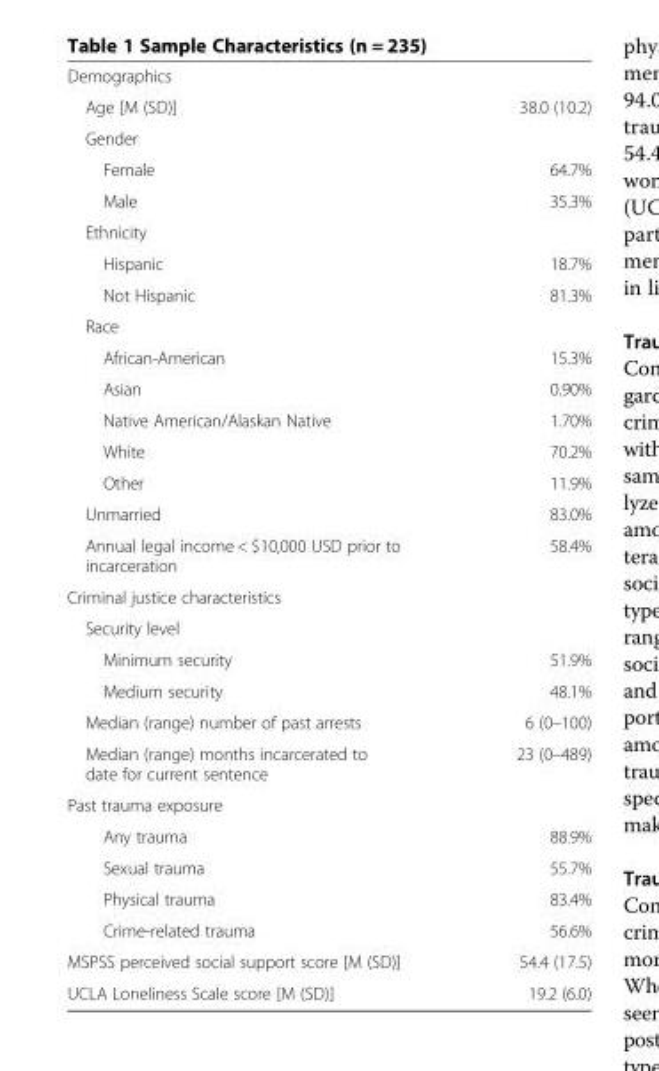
<table><tbody><tr><td colspan="2">Demographics</td></tr><tr><td>Age [M (SD)]</td><td>38.0 (10.2)</td></tr><tr><td colspan="2">Gender</td></tr><tr><td>Female</td><td>64.7%</td></tr><tr><td>Male</td><td>35.3%</td></tr><tr><td colspan="2">Ethnicity</td></tr><tr><td>Hispanic</td><td>18.7%</td></tr><tr><td>Not Hispanic</td><td>81.3%</td></tr><tr><td colspan="2">Race</td></tr><tr><td>African-American</td><td>15.3%</td></tr><tr><td>Asian</td><td>0.90%</td></tr><tr><td>Native American/Alaskan Native</td><td>1.70%</td></tr><tr><td>White</td><td>70.2%</td></tr><tr><td>Other</td><td>11.9%</td></tr><tr><td>Unmarried</td><td>83.0%</td></tr><tr><td>Annual legal income &lt; $10,000 USD prior to incarceration</td><td>58.4%</td></tr><tr><td colspan="2">Criminal justice characteristics</td></tr><tr><td colspan="2">Security level</td></tr><tr><td>Minimum security</td><td>51.9%</td></tr><tr><td>Medium security</td><td>48.1%</td></tr><tr><td>Median (range) number of past arrests</td><td>6 (0–100)</td></tr><tr><td>Median (range) months incarcerated to date for current sentence</td><td>23 (0–489)</td></tr><tr><td colspan="2">Past trauma exposure</td></tr><tr><td>Any trauma</td><td>88.9%</td></tr><tr><td>Sexual trauma</td><td>55.7%</td></tr><tr><td>Physical trauma</td><td>83.4%</td></tr><tr><td>Crime-related trauma</td><td>56.6%</td></tr><tr><td>MSPSS perceived social support score [M (SD)]</td><td>54.4 (17.5)</td></tr><tr><td>UCLA Loneliness Scale score [M (SD)]</td><td>19.2 (6.0)</td></tr></tbody></table>